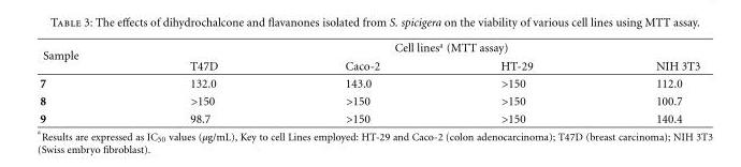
<table><thead><tr><td rowspan="2">Sample</td><td colspan="4">Cell lines<sup>a</sup> (MTT assay)</td></tr><tr><td>T47D</td><td>Caco-2</td><td>HT-29</td><td>NIH 3T3</td></tr></thead><tbody><tr><td>7</td><td>132.0</td><td>143.0</td><td>&gt;150</td><td>112.0</td></tr><tr><td>8</td><td>&gt;150</td><td>&gt;150</td><td>&gt;150</td><td>100.7</td></tr><tr><td>9</td><td>98.7</td><td>&gt;150</td><td>&gt;150</td><td>140.4</td></tr></tbody></table>